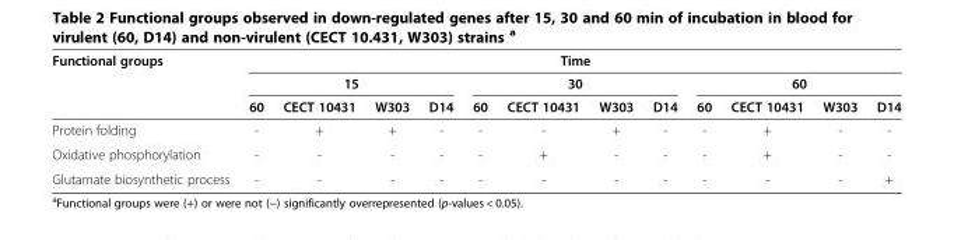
<table><thead><tr><td rowspan="3">Functional groups</td><td colspan="12">Time</td></tr><tr><td colspan="4">15</td><td colspan="4">30</td><td colspan="4">60</td></tr><tr><td>60</td><td>CECT 10431</td><td>W303</td><td>D14</td><td>60</td><td>CECT 10431</td><td>W303</td><td>D14</td><td>60</td><td>CECT 10431</td><td>W303</td><td>D14</td></tr></thead><tbody><tr><td>Protein folding</td><td>-</td><td>+</td><td>+</td><td>-</td><td>-</td><td>-</td><td>+</td><td>-</td><td>-</td><td>+</td><td>-</td><td>-</td></tr><tr><td>Oxidative phosphorylation</td><td>-</td><td>-</td><td>-</td><td>-</td><td>-</td><td>+</td><td>-</td><td>-</td><td>-</td><td>+</td><td>-</td><td>-</td></tr><tr><td>Glutamate biosynthetic process</td><td>-</td><td>-</td><td>-</td><td>-</td><td>-</td><td>-</td><td>-</td><td>-</td><td>-</td><td>-</td><td>-</td><td>+</td></tr></tbody></table>